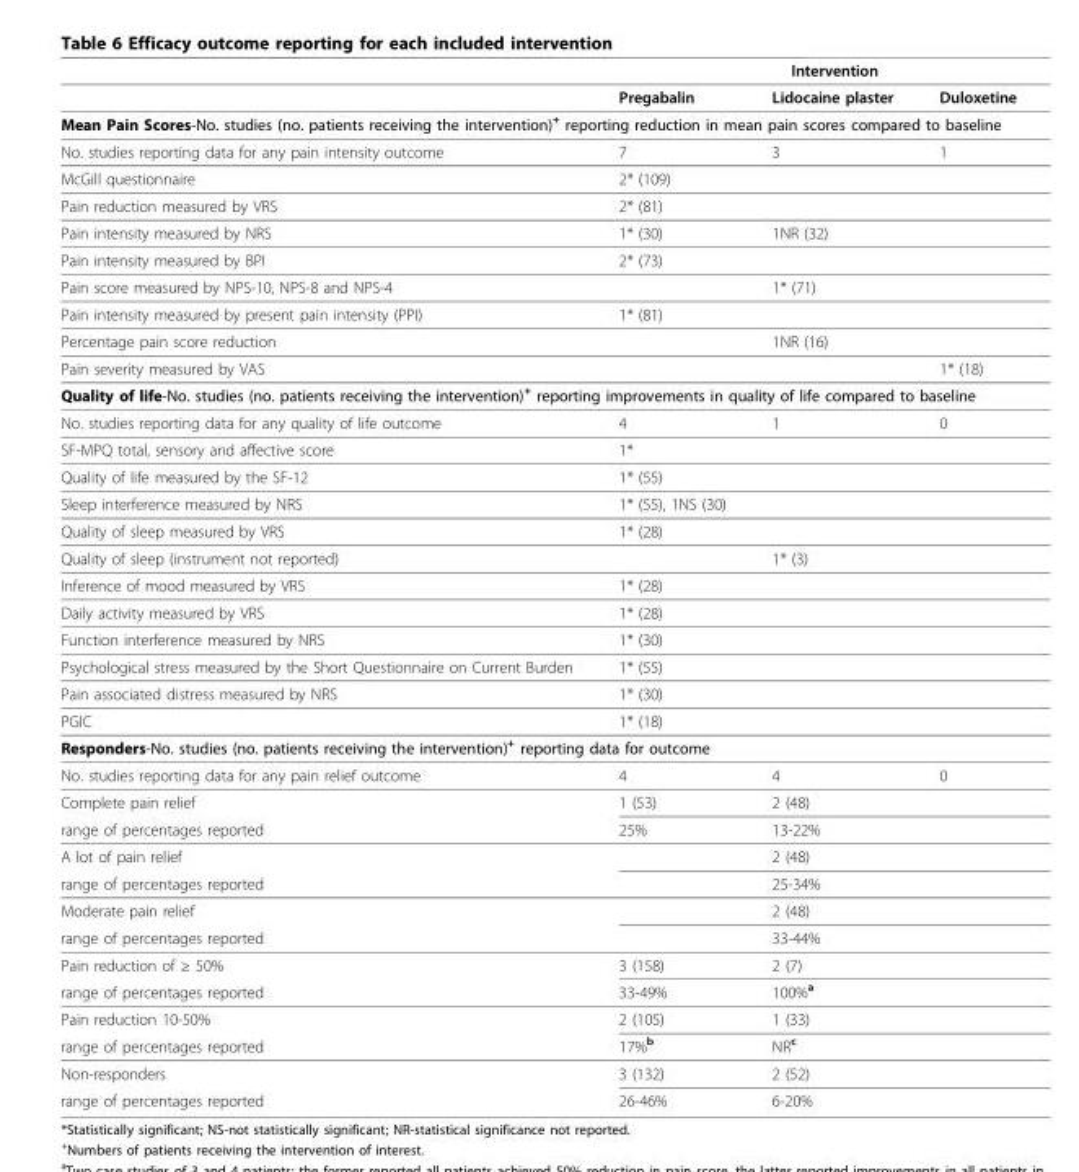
<table><thead><tr><td rowspan="2"></td><td colspan="3">Intervention</td></tr><tr><td>Pregabalin</td><td>Lidocaine plaster</td><td>Duloxetine</td></tr></thead><tbody><tr><td colspan="4">Mean Pain Scores-No. studies (no. patients receiving the intervention)<sup>+</sup> reporting reduction in mean pain scores compared to baseline</td></tr><tr><td>No. studies reporting data for any pain intensity outcome</td><td>7</td><td>3</td><td>1</td></tr><tr><td>McGill questionnaire</td><td>2* (109)</td><td></td><td></td></tr><tr><td>Pain reduction measured by VRS</td><td>2* (81)</td><td></td><td></td></tr><tr><td>Pain intensity measured by NRS</td><td>1* (30)</td><td>1NR (32)</td><td></td></tr><tr><td>Pain intensity measured by BPI</td><td>2* (73)</td><td></td><td></td></tr><tr><td>Pain score measured by NPS-10, NPS-8 and NPS-4</td><td></td><td>1* (71)</td><td></td></tr><tr><td>Pain intensity measured by present pain intensity (PPI)</td><td>1* (81)</td><td></td><td></td></tr><tr><td>Percentage pain score reduction</td><td></td><td>1NR (16)</td><td></td></tr><tr><td>Pain severity measured by VAS</td><td></td><td></td><td>1* (18)</td></tr><tr><td colspan="4">Quality of life-No. studies (no. patients receiving the intervention)<sup>+</sup> reporting improvements in quality of life compared to baseline</td></tr><tr><td>No. studies reporting data for any quality of life outcome</td><td>4</td><td>1</td><td>0</td></tr><tr><td>SF-MPQ total, sensory and affective score</td><td>1*</td><td></td><td></td></tr><tr><td>Quality of life measured by the SF-12</td><td>1* (55)</td><td></td><td></td></tr><tr><td>Sleep interference measured by NRS</td><td>1* (55), 1NS (30)</td><td></td><td></td></tr><tr><td>Quality of sleep measured by VRS</td><td>1* (28)</td><td></td><td></td></tr><tr><td>Quality of sleep (instrument not reported)</td><td></td><td>1* (3)</td><td></td></tr><tr><td>Inference of mood measured by VRS</td><td>1* (28)</td><td></td><td></td></tr><tr><td>Daily activity measured by VRS</td><td>1* (28)</td><td></td><td></td></tr><tr><td>Function interference measured by NRS</td><td>1* (30)</td><td></td><td></td></tr><tr><td>Psychological stress measured by the Short Questionnaire on Current Burden</td><td>1* (55)</td><td></td><td></td></tr><tr><td>Pain associated distress measured by NRS</td><td>1* (30)</td><td></td><td></td></tr><tr><td>PGIC</td><td>1* (18)</td><td></td><td></td></tr><tr><td colspan="4">Responders-No. studies (no. patients receiving the intervention)<sup>+</sup> reporting data for outcome</td></tr><tr><td>No. studies reporting data for any pain relief outcome</td><td>4</td><td>4</td><td>0</td></tr><tr><td>Complete pain relief</td><td>1 (53)</td><td>2 (48)</td><td></td></tr><tr><td>range of percentages reported</td><td>25%</td><td>13-22%</td><td></td></tr><tr><td>A lot of pain relief</td><td></td><td>2 (48)</td><td></td></tr><tr><td>range of percentages reported</td><td></td><td>25-34%</td><td></td></tr><tr><td>Moderate pain relief</td><td></td><td>2 (48)</td><td></td></tr><tr><td>range of percentages reported</td><td></td><td>33-44%</td><td></td></tr><tr><td>Pain reduction of ≥ 50%</td><td>3 (158)</td><td>2 (7)</td><td></td></tr><tr><td>range of percentages reported</td><td>33-49%</td><td>100%<sup>a</sup></td><td></td></tr><tr><td>Pain reduction 10-50%</td><td>2 (105)</td><td>1 (33)</td><td></td></tr><tr><td>range of percentages reported</td><td>17%<sup>b</sup></td><td>NR<sup>c</sup></td><td></td></tr><tr><td>Non-responders</td><td>3 (132)</td><td>2 (52)</td><td></td></tr><tr><td>range of percentages reported</td><td>26-46%</td><td>6-20%</td><td></td></tr></tbody></table>